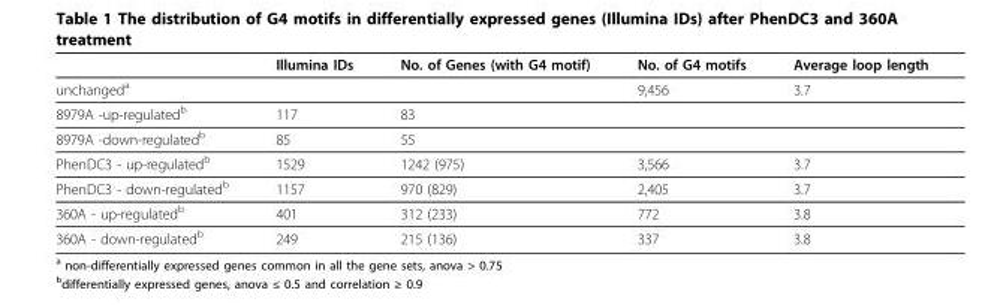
<table><thead><tr><td></td><td>Illumina IDs</td><td>No. of Genes (with G4 motif)</td><td>No. of G4 motifs</td><td>Average loop length</td></tr></thead><tbody><tr><td>unchanged<sup>a</sup></td><td></td><td></td><td>9,456</td><td>3.7</td></tr><tr><td>8979A -up-regulated<sup>b</sup></td><td>117</td><td>83</td><td></td><td></td></tr><tr><td>8979A -down-regulated<sup>b</sup></td><td>85</td><td>55</td><td></td><td></td></tr><tr><td>PhenDC3 - up-regulated<sup>b</sup></td><td>1529</td><td>1242 (975)</td><td>3,566</td><td>3.7</td></tr><tr><td>PhenDC3 - down-regulated<sup>b</sup></td><td>1157</td><td>970 (829)</td><td>2,405</td><td>3.7</td></tr><tr><td>360A - up-regulated<sup>b</sup></td><td>401</td><td>312 (233)</td><td>772</td><td>3.8</td></tr><tr><td>360A - down-regulated<sup>b</sup></td><td>249</td><td>215 (136)</td><td>337</td><td>3.8</td></tr></tbody></table>